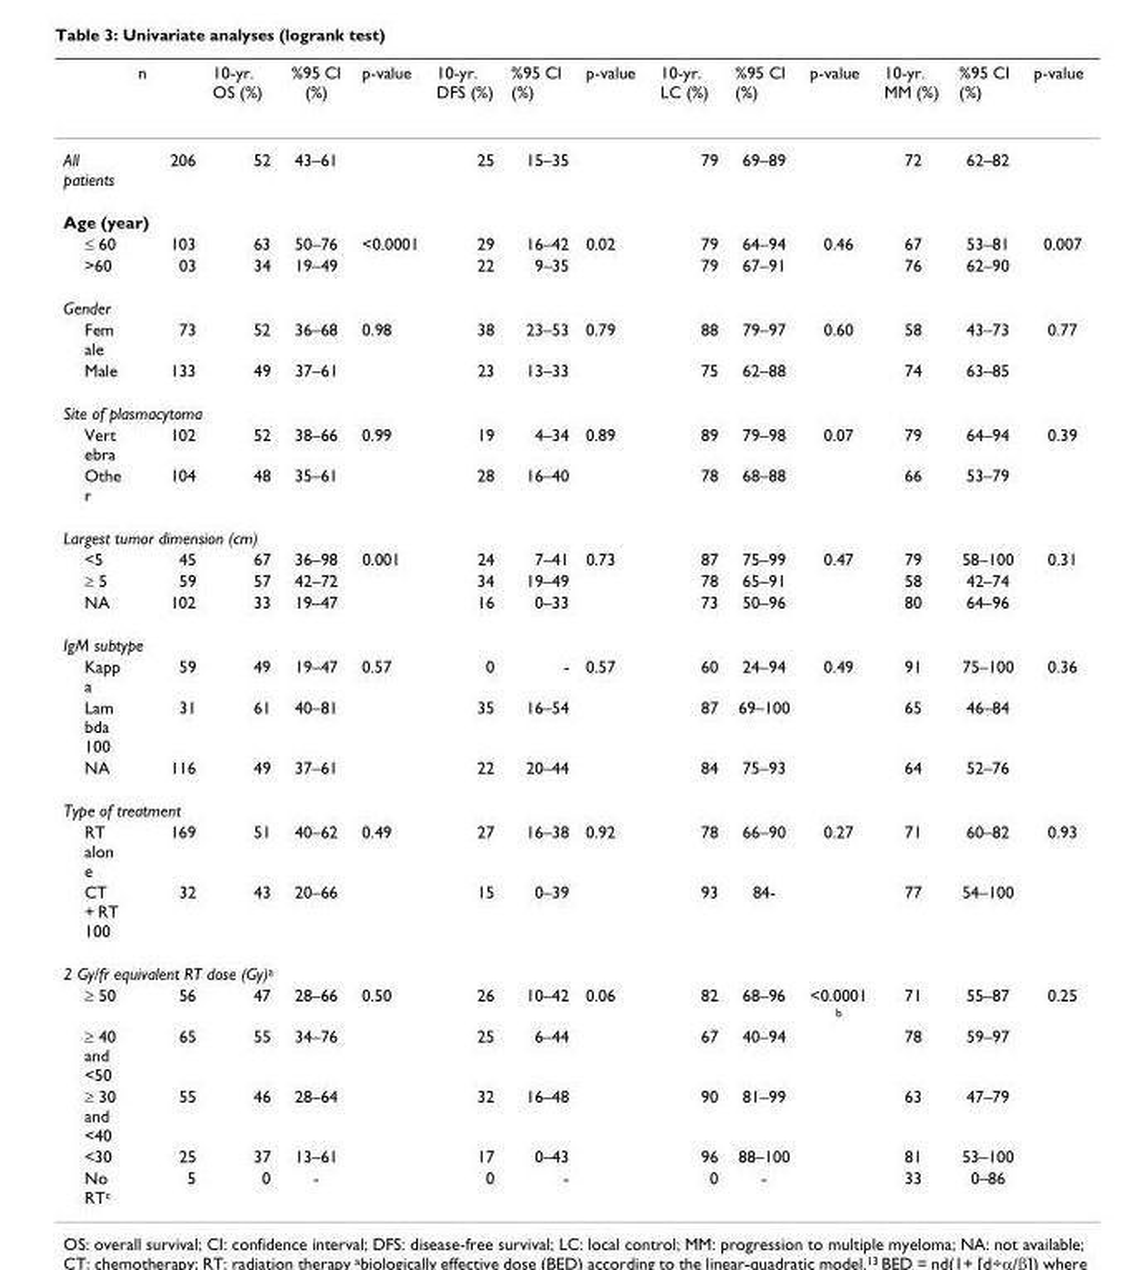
<table><thead><tr><td></td><td>n</td><td>10-yr. OS (%)</td><td>%95 CI (%)</td><td>p-value</td><td>10-yr. DFS (%)</td><td>%95 CI (%)</td><td>p-value</td><td>10-yr. LC (%)</td><td>%95 CI (%)</td><td>p-value</td><td>10-yr. MM (%)</td><td>%95 CI (%)</td><td>p-value</td></tr></thead><tbody><tr><td>All patients</td><td>206</td><td>52</td><td>43–61</td><td></td><td>25</td><td>15–35</td><td></td><td>79</td><td>69–89</td><td></td><td>72</td><td>62–82</td><td></td></tr><tr><td colspan="14">Age (year)</td></tr><tr><td>≤ 60</td><td>103</td><td>63</td><td>50–76</td><td>&lt;0.0001</td><td>29</td><td>16–42</td><td>0.02</td><td>79</td><td>64–94</td><td>0.46</td><td>67</td><td>53–81</td><td>0.007</td></tr><tr><td>&gt;60</td><td>03</td><td>34</td><td>19–49</td><td></td><td>22</td><td>9–35</td><td></td><td>79</td><td>67–91</td><td></td><td>76</td><td>62–90</td><td></td></tr><tr><td colspan="14">Gender</td></tr><tr><td>Fem ale</td><td>73</td><td>52</td><td>36–68</td><td>0.98</td><td>38</td><td>23–53</td><td>0.79</td><td>88</td><td>79–97</td><td>0.60</td><td>58</td><td>43–73</td><td>0.77</td></tr><tr><td>Male</td><td>133</td><td>49</td><td>37–61</td><td></td><td>23</td><td>13–33</td><td></td><td>75</td><td>62–88</td><td></td><td>74</td><td>63–85</td><td></td></tr><tr><td colspan="14">Site of plasmacytoma</td></tr><tr><td>Vert ebra</td><td>102</td><td>52</td><td>38–66</td><td>0.99</td><td>19</td><td>4–34</td><td>0.89</td><td>89</td><td>79–98</td><td>0.07</td><td>79</td><td>64–94</td><td>0.39</td></tr><tr><td>Othe r</td><td>104</td><td>48</td><td>35–61</td><td></td><td>28</td><td>16–40</td><td></td><td>78</td><td>68–88</td><td></td><td>66</td><td>53–79</td><td></td></tr><tr><td colspan="14">Largest tumor dimension (cm)</td></tr><tr><td>&lt;5</td><td>45</td><td>67</td><td>36–98</td><td>0.001</td><td>24</td><td>7–41</td><td>0.73</td><td>87</td><td>75–99</td><td>0.47</td><td>79</td><td>58–100</td><td>0.31</td></tr><tr><td>≥ 5</td><td>59</td><td>57</td><td>42–72</td><td></td><td>34</td><td>19–49</td><td></td><td>78</td><td>65–91</td><td></td><td>58</td><td>42–74</td><td></td></tr><tr><td>NA</td><td>102</td><td>33</td><td>19–47</td><td></td><td>16</td><td>0–33</td><td></td><td>73</td><td>50–96</td><td></td><td>80</td><td>64–96</td><td></td></tr><tr><td colspan="14">IgM subtype</td></tr><tr><td>Kapp a</td><td>59</td><td>49</td><td>19–47</td><td>0.57</td><td>0</td><td>-</td><td>0.57</td><td>60</td><td>24–94</td><td>0.49</td><td>91</td><td>75–100</td><td>0.36</td></tr><tr><td>Lam bda 100</td><td>31</td><td>61</td><td>40–81</td><td></td><td>35</td><td>16–54</td><td></td><td>87</td><td>69–100</td><td></td><td>65</td><td>46–84</td><td></td></tr><tr><td>NA</td><td>116</td><td>49</td><td>37–61</td><td></td><td>22</td><td>20–44</td><td></td><td>84</td><td>75–93</td><td></td><td>64</td><td>52–76</td><td></td></tr><tr><td colspan="14">Type of treatment</td></tr><tr><td>RT alon e</td><td>169</td><td>51</td><td>40–62</td><td>0.49</td><td>27</td><td>16–38</td><td>0.92</td><td>78</td><td>66–90</td><td>0.27</td><td>71</td><td>60–82</td><td>0.93</td></tr><tr><td>CT + RT 100</td><td>32</td><td>43</td><td>20–66</td><td></td><td>15</td><td>0–39</td><td></td><td>93</td><td>84-</td><td></td><td>77</td><td>54–100</td><td></td></tr><tr><td colspan="14">2 Gy/fr equivalent RT dose (Gy)a</td></tr><tr><td>≥ 50</td><td>56</td><td>47</td><td>28–66</td><td>0.50</td><td>26</td><td>10–42</td><td>0.06</td><td>82</td><td>68–96</td><td>&lt;0.0001 b</td><td>71</td><td>55–87</td><td>0.25</td></tr><tr><td>≥ 40 and &lt;50</td><td>65</td><td>55</td><td>34–76</td><td></td><td>25</td><td>6–44</td><td></td><td>67</td><td>40–94</td><td></td><td>78</td><td>59–97</td><td></td></tr><tr><td>≥ 30 and &lt;40</td><td>55</td><td>46</td><td>28–64</td><td></td><td>32</td><td>16–48</td><td></td><td>90</td><td>81–99</td><td></td><td>63</td><td>47–79</td><td></td></tr><tr><td>&lt;30</td><td>25</td><td>37</td><td>13–61</td><td></td><td>17</td><td>0–43</td><td></td><td>96</td><td>88–100</td><td></td><td>81</td><td>53–100</td><td></td></tr><tr><td>No RTc</td><td>5</td><td>0</td><td>-</td><td></td><td>0</td><td>-</td><td></td><td>0</td><td>-</td><td></td><td>33</td><td>0–86</td><td></td></tr></tbody></table>